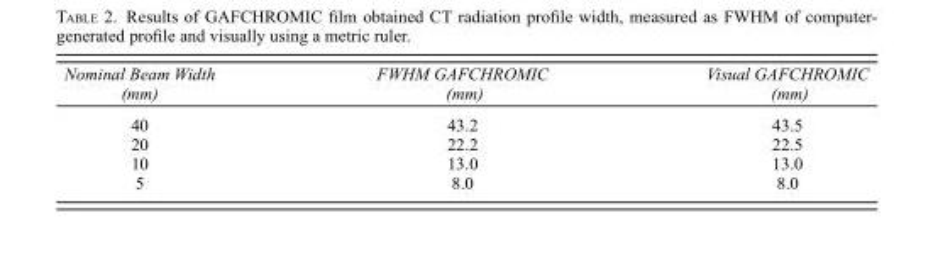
<table><thead><tr><td>Nominal Beam Width (mm)</td><td>FWHM GAFCHROMIC (mm)</td><td>Visual GAFCHROMIC (mm)</td></tr></thead><tbody><tr><td>40</td><td>43.2</td><td>43.5</td></tr><tr><td>20</td><td>22.2</td><td>22.5</td></tr><tr><td>10</td><td>13.0</td><td>13.0</td></tr><tr><td>5</td><td>8.0</td><td>8.0</td></tr></tbody></table>